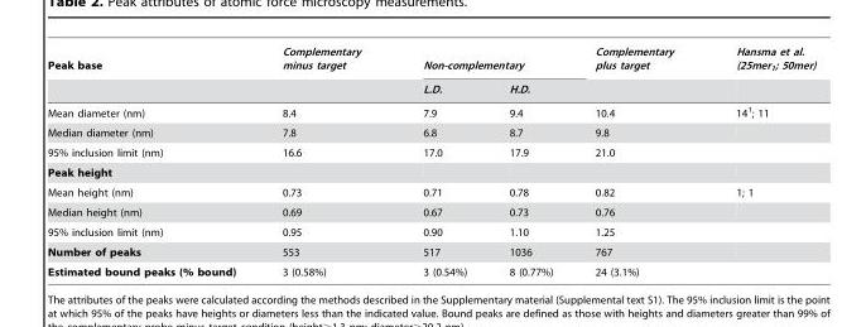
<table><thead><tr><td rowspan="2">Peak base</td><td rowspan="2">Complementary minus target</td><td colspan="2">Non-complementary</td><td rowspan="2">Complementary plus target</td><td rowspan="2">Hansma et al. (25mer1; 50mer)</td></tr><tr><td>L.D.</td><td>H.D.</td></tr></thead><tbody><tr><td>Mean diameter (nm)</td><td>8.4</td><td>7.9</td><td>9.4</td><td>10.4</td><td>14<sup>1</sup>; 11</td></tr><tr><td>Median diameter (nm)</td><td>7.8</td><td>6.8</td><td>8.7</td><td>9.8</td><td></td></tr><tr><td>95% inclusion limit (nm)</td><td>16.6</td><td>17.0</td><td>17.9</td><td>21.0</td><td></td></tr><tr><td colspan="6">Peak height</td></tr><tr><td>Mean height (nm)</td><td>0.73</td><td>0.71</td><td>0.78</td><td>0.82</td><td>1; 1</td></tr><tr><td>Median height (nm)</td><td>0.69</td><td>0.67</td><td>0.73</td><td>0.76</td><td></td></tr><tr><td>95% inclusion limit (nm)</td><td>0.95</td><td>0.90</td><td>1.10</td><td>1.25</td><td></td></tr><tr><td>Number of peaks</td><td>553</td><td>517</td><td>1036</td><td>767</td><td></td></tr><tr><td>Estimated bound peaks (% bound)</td><td>3 (0.58%)</td><td>3 (0.54%)</td><td>8 (0.77%)</td><td>24 (3.1%)</td><td></td></tr></tbody></table>